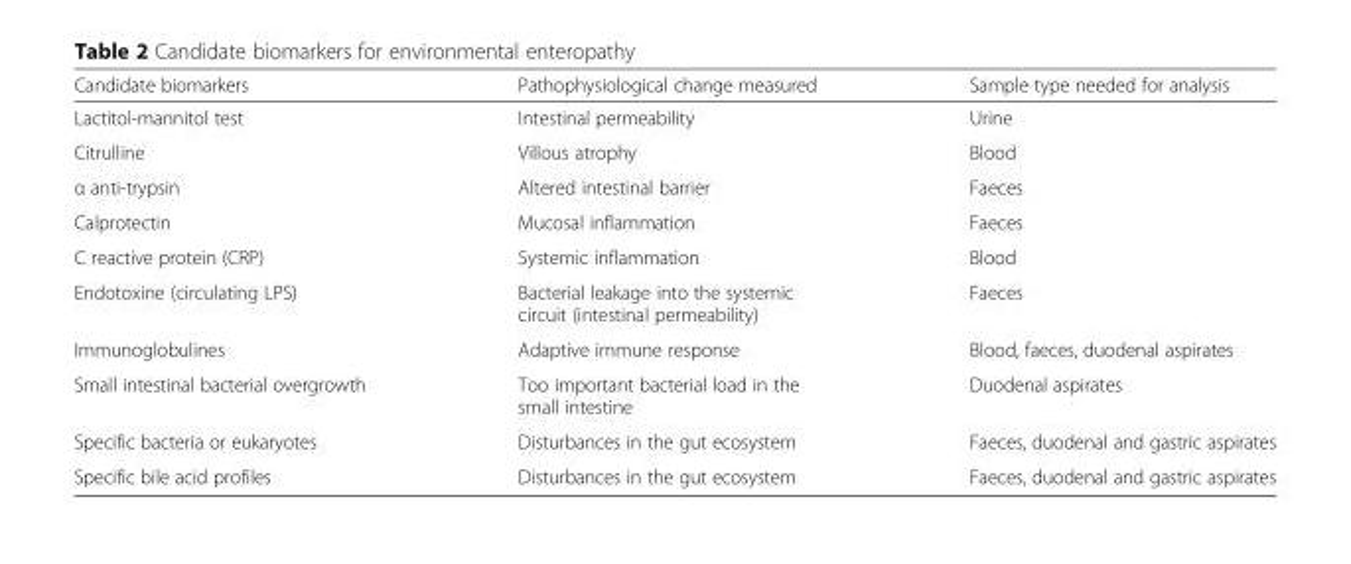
<table><thead><tr><td>Candidate biomarkers</td><td>Pathophysiological change measured</td><td>Sample type needed for analysis</td></tr></thead><tbody><tr><td>Lactitol-mannitol test</td><td>Intestinal permeability</td><td>Urine</td></tr><tr><td>Citrulline</td><td>Villous atrophy</td><td>Blood</td></tr><tr><td>α anti-trypsin</td><td>Altered intestinal barrier</td><td>Faeces</td></tr><tr><td>Calprotectin</td><td>Mucosal inflammation</td><td>Faeces</td></tr><tr><td>C reactive protein (CRP)</td><td>Systemic inflammation</td><td>Blood</td></tr><tr><td>Endotoxine (circulating LPS)</td><td>Bacterial leakage into the systemic circuit (intestinal permeability)</td><td>Faeces</td></tr><tr><td>Immunoglobulines</td><td>Adaptive immune response</td><td>Blood, faeces, duodenal aspirates</td></tr><tr><td>Small intestinal bacterial overgrowth</td><td>Too important bacterial load in the small intestine</td><td>Duodenal aspirates</td></tr><tr><td>Specific bacteria or eukaryotes</td><td>Disturbances in the gut ecosystem</td><td>Faeces, duodenal and gastric aspirates</td></tr><tr><td>Specific bile acid profiles</td><td>Disturbances in the gut ecosystem</td><td>Faeces, duodenal and gastric aspirates</td></tr></tbody></table>